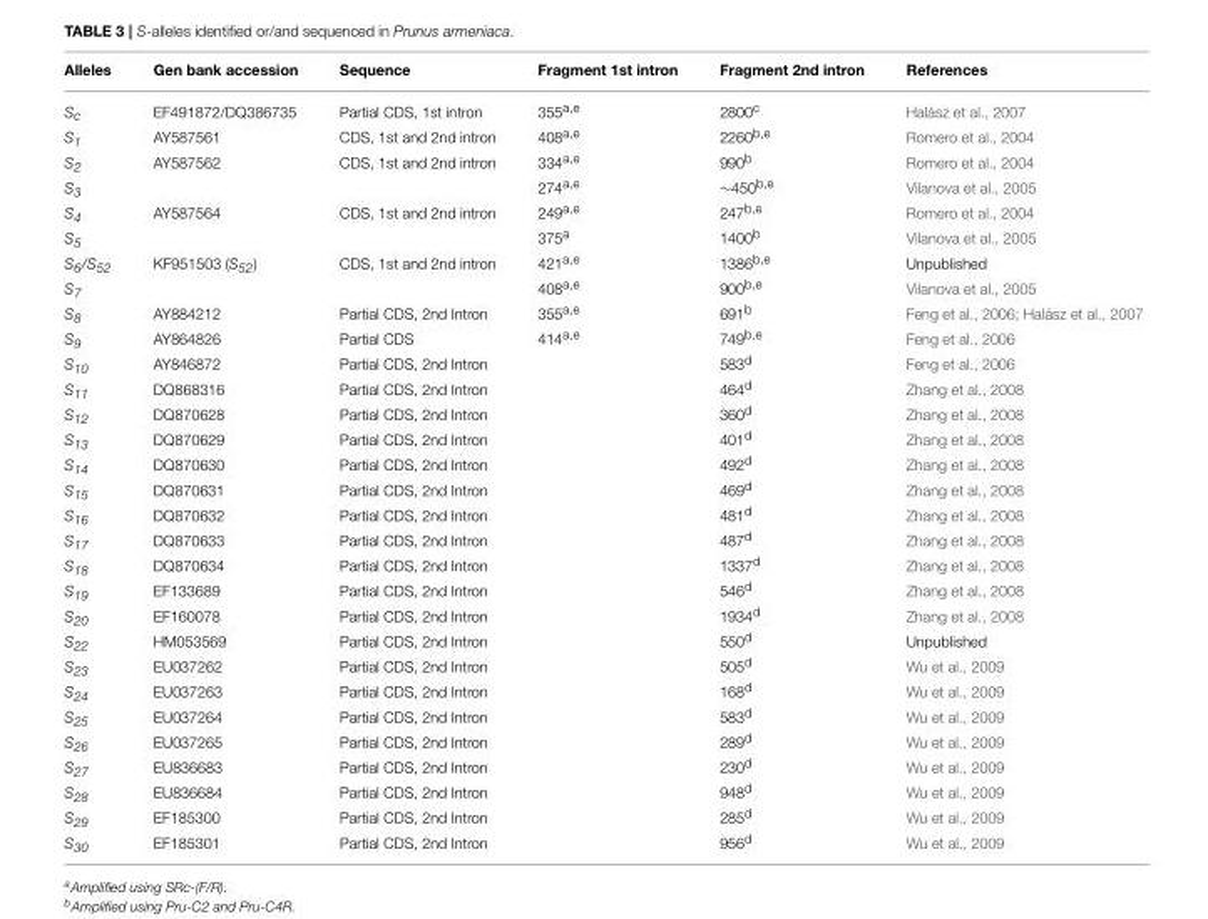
<table><thead><tr><td>Alleles</td><td>Gen bank accession</td><td>Sequence</td><td>Fragment 1st intron</td><td>Fragment 2nd intron</td><td>References</td></tr></thead><tbody><tr><td>Sc</td><td>EF491872/DQ386735</td><td>Partial CDS, 1st intron</td><td>355<sup>a,e</sup></td><td>2800<sup>c</sup></td><td>Halász et al., 2007</td></tr><tr><td>S1</td><td>AY587561</td><td>CDS, 1st and 2nd intron</td><td>408<sup>a,e</sup></td><td>2260<sup>b,e</sup></td><td>Romero et al., 2004</td></tr><tr><td>S2</td><td>AY587562</td><td>CDS, 1st and 2nd intron</td><td>334<sup>a,e</sup></td><td>990<sup>b</sup></td><td>Romero et al., 2004</td></tr><tr><td>S3</td><td></td><td></td><td>274<sup>a,e</sup></td><td>∼450b,e</td><td>Vilanova et al., 2005</td></tr><tr><td>S4</td><td>AY587564</td><td>CDS, 1st and 2nd intron</td><td>249<sup>a,e</sup></td><td>247<sup>b,e</sup></td><td>Romero et al., 2004</td></tr><tr><td>S5</td><td></td><td></td><td>375<sup>a</sup></td><td>1400<sup>b</sup></td><td>Vilanova et al., 2005</td></tr><tr><td>S6/S52</td><td>KF951503 (S52)</td><td>CDS, 1st and 2nd intron</td><td>421<sup>a,e</sup></td><td>1386<sup>b,e</sup></td><td>Unpublished</td></tr><tr><td>S7</td><td></td><td></td><td>408<sup>a,e</sup></td><td>900<sup>b,e</sup></td><td>Vilanova et al., 2005</td></tr><tr><td>S8</td><td>AY884212</td><td>Partial CDS, 2nd Intron</td><td>355<sup>a,e</sup></td><td>691<sup>b</sup></td><td>Feng et al., 2006; Halász et al., 2007</td></tr><tr><td>S9</td><td>AY864826</td><td>Partial CDS</td><td>414<sup>a,e</sup></td><td>749<sup>b,e</sup></td><td>Feng et al., 2006</td></tr><tr><td>S10</td><td>AY846872</td><td>Partial CDS, 2nd Intron</td><td></td><td>583<sup>d</sup></td><td>Feng et al., 2006</td></tr><tr><td>S11</td><td>DQ868316</td><td>Partial CDS, 2nd Intron</td><td></td><td>464<sup>d</sup></td><td>Zhang et al., 2008</td></tr><tr><td>S12</td><td>DQ870628</td><td>Partial CDS, 2nd Intron</td><td></td><td>360<sup>d</sup></td><td>Zhang et al., 2008</td></tr><tr><td>S13</td><td>DQ870629</td><td>Partial CDS, 2nd Intron</td><td></td><td>401<sup>d</sup></td><td>Zhang et al., 2008</td></tr><tr><td>S14</td><td>DQ870630</td><td>Partial CDS, 2nd Intron</td><td></td><td>492<sup>d</sup></td><td>Zhang et al., 2008</td></tr><tr><td>S15</td><td>DQ870631</td><td>Partial CDS, 2nd Intron</td><td></td><td>469<sup>d</sup></td><td>Zhang et al., 2008</td></tr><tr><td>S16</td><td>DQ870632</td><td>Partial CDS, 2nd Intron</td><td></td><td>481<sup>d</sup></td><td>Zhang et al., 2008</td></tr><tr><td>S17</td><td>DQ870633</td><td>Partial CDS, 2nd Intron</td><td></td><td>487<sup>d</sup></td><td>Zhang et al., 2008</td></tr><tr><td>S18</td><td>DQ870634</td><td>Partial CDS, 2nd Intron</td><td></td><td>1337<sup>d</sup></td><td>Zhang et al., 2008</td></tr><tr><td>S19</td><td>EF133689</td><td>Partial CDS, 2nd Intron</td><td></td><td>546<sup>d</sup></td><td>Zhang et al., 2008</td></tr><tr><td>S20</td><td>EF160078</td><td>Partial CDS, 2nd Intron</td><td></td><td>1934<sup>d</sup></td><td>Zhang et al., 2008</td></tr><tr><td>S22</td><td>HM053569</td><td>Partial CDS, 2nd Intron</td><td></td><td>550<sup>d</sup></td><td>Unpublished</td></tr><tr><td>S23</td><td>EU037262</td><td>Partial CDS, 2nd Intron</td><td></td><td>505<sup>d</sup></td><td>Wu et al., 2009</td></tr><tr><td>S24</td><td>EU037263</td><td>Partial CDS, 2nd Intron</td><td></td><td>168<sup>d</sup></td><td>Wu et al., 2009</td></tr><tr><td>S25</td><td>EU037264</td><td>Partial CDS, 2nd Intron</td><td></td><td>583<sup>d</sup></td><td>Wu et al., 2009</td></tr><tr><td>S26</td><td>EU037265</td><td>Partial CDS, 2nd Intron</td><td></td><td>289<sup>d</sup></td><td>Wu et al., 2009</td></tr><tr><td>S27</td><td>EU836683</td><td>Partial CDS, 2nd Intron</td><td></td><td>230<sup>d</sup></td><td>Wu et al., 2009</td></tr><tr><td>S28</td><td>EU836684</td><td>Partial CDS, 2nd Intron</td><td></td><td>948<sup>d</sup></td><td>Wu et al., 2009</td></tr><tr><td>S29</td><td>EF185300</td><td>Partial CDS, 2nd Intron</td><td></td><td>285<sup>d</sup></td><td>Wu et al., 2009</td></tr><tr><td>S30</td><td>EF185301</td><td>Partial CDS, 2nd Intron</td><td></td><td>956<sup>d</sup></td><td>Wu et al., 2009</td></tr></tbody></table>